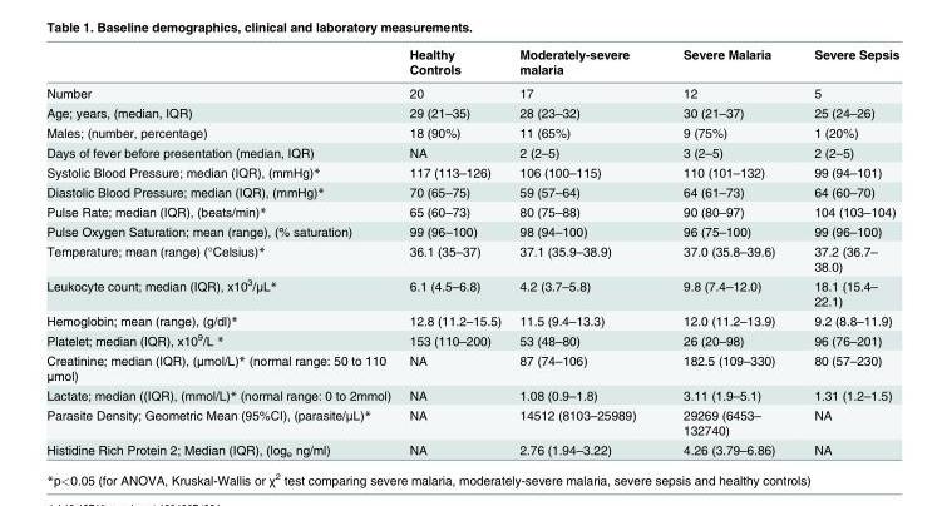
<table><thead><tr><td></td><td>Healthy Controls</td><td>Moderately-severe malaria</td><td>Severe Malaria</td><td>Severe Sepsis</td></tr></thead><tbody><tr><td>Number</td><td>20</td><td>17</td><td>12</td><td>5</td></tr><tr><td>Age; years, (median, IQR)</td><td>29 (21–35)</td><td>28 (23–32)</td><td>30 (21–37)</td><td>25 (24–26)</td></tr><tr><td>Males; (number, percentage)</td><td>18 (90%)</td><td>11 (65%)</td><td>9 (75%)</td><td>1 (20%)</td></tr><tr><td>Days of fever before presentation (median, IQR)</td><td>NA</td><td>2 (2–5)</td><td>3 (2–5)</td><td>2 (2–5)</td></tr><tr><td>Systolic Blood Pressure; median (IQR), (mmHg)*</td><td>117 (113–126)</td><td>106 (100–115)</td><td>110 (101–132)</td><td>99 (94–101)</td></tr><tr><td>Diastolic Blood Pressure; median (IQR), (mmHg)*</td><td>70 (65–75)</td><td>59 (57–64)</td><td>64 (61–73)</td><td>64 (60–70)</td></tr><tr><td>Pulse Rate; median (IQR), (beats/min)*</td><td>65 (60–73)</td><td>80 (75–88)</td><td>90 (80–97)</td><td>104 (103–104)</td></tr><tr><td>Pulse Oxygen Saturation; mean (range), (% saturation)</td><td>99 (96–100)</td><td>98 (94–100)</td><td>96 (75–100)</td><td>99 (96–100)</td></tr><tr><td>Temperature; mean (range) (°Celsius)*</td><td>36.1 (35–37)</td><td>37.1 (35.9–38.9)</td><td>37.0 (35.8–39.6)</td><td>37.2 (36.7– 38.0)</td></tr><tr><td>Leukocyte count; median (IQR), x10<sup>3</sup>/μL*</td><td>6.1 (4.5–6.8)</td><td>4.2 (3.7–5.8)</td><td>9.8 (7.4–12.0)</td><td>18.1 (15.4– 22.1)</td></tr><tr><td>Hemoglobin; mean (range), (g/dl)*</td><td>12.8 (11.2–15.5)</td><td>11.5 (9.4–13.3)</td><td>12.0 (11.2–13.9)</td><td>9.2 (8.8–11.9)</td></tr><tr><td>Platelet; median (IQR), x10<sup>9</sup>/L *</td><td>153 (110–200)</td><td>53 (48–80)</td><td>26 (20–98)</td><td>96 (76–201)</td></tr><tr><td>Creatinine; median (IQR), (μmol/L)* (normal range: 50 to 110 μmol)</td><td>NA</td><td>87 (74–106)</td><td>182.5 (109–330)</td><td>80 (57–230)</td></tr><tr><td>Lactate; median ((IQR), (mmol/L)* (normal range: 0 to 2mmol)</td><td>NA</td><td>1.08 (0.9–1.8)</td><td>3.11 (1.9–5.1)</td><td>1.31 (1.2–1.5)</td></tr><tr><td>Parasite Density; Geometric Mean (95%CI), (parasite/μL)*</td><td>NA</td><td>14512 (8103–25989)</td><td>29269 (6453– 132740)</td><td>NA</td></tr><tr><td>Histidine Rich Protein 2; Median (IQR), (log<sub>e</sub> ng/ml)</td><td>NA</td><td>2.76 (1.94–3.22)</td><td>4.26 (3.79–6.86)</td><td>NA</td></tr></tbody></table>